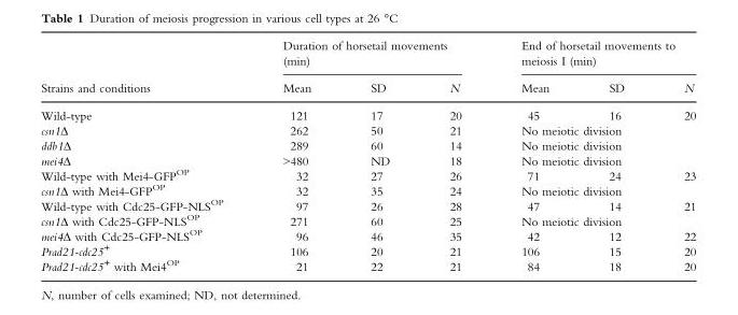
<table><thead><tr><td rowspan="2">Strains and conditions</td><td colspan="3">Duration of horsetail movements (min)</td><td colspan="3">End of horsetail movements to meiosis I (min)</td></tr><tr><td>Mean</td><td>SD</td><td>N</td><td>Mean</td><td>SD</td><td>N</td></tr></thead><tbody><tr><td>Wild-type</td><td>121</td><td>17</td><td>20</td><td>45</td><td>16</td><td>20</td></tr><tr><td>csn1Δ</td><td>262</td><td>50</td><td>21</td><td colspan="3">No meiotic division</td></tr><tr><td>ddb1Δ</td><td>289</td><td>60</td><td>14</td><td colspan="3">No meiotic division</td></tr><tr><td>mei4Δ</td><td>&gt;480</td><td>ND</td><td>18</td><td colspan="3">No meiotic division</td></tr><tr><td>Wild-type with Mei4-GFP<sup>OP</sup></td><td>32</td><td>27</td><td>26</td><td>71</td><td>24</td><td>23</td></tr><tr><td>csn1Δ with Mei4-GFP<sup>OP</sup></td><td>32</td><td>35</td><td>24</td><td colspan="3">No meiotic division</td></tr><tr><td>Wild-type with Cdc25-GFP-NLS<sup>OP</sup></td><td>97</td><td>26</td><td>28</td><td>47</td><td>14</td><td>21</td></tr><tr><td>csn1Δ with Cdc25-GFP-NLS<sup>OP</sup></td><td>271</td><td>60</td><td>25</td><td colspan="3">No meiotic division</td></tr><tr><td>mei4Δ with Cdc25-GFP-NLS<sup>OP</sup></td><td>96</td><td>46</td><td>35</td><td>42</td><td>12</td><td>22</td></tr><tr><td>Prad21-cdc25<sup>+</sup></td><td>106</td><td>20</td><td>21</td><td>106</td><td>15</td><td>20</td></tr><tr><td>Prad21-cdc25<sup>+</sup> with Mei4<sup>OP</sup></td><td>21</td><td>22</td><td>21</td><td>84</td><td>18</td><td>20</td></tr></tbody></table>